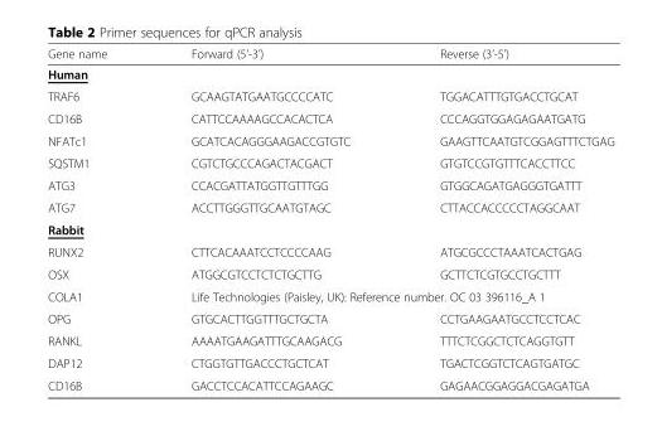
<table><thead><tr><td>Gene name</td><td>Forward (5’-3’)</td><td>Reverse (3’-5’)</td></tr></thead><tbody><tr><td colspan="3">Human</td></tr><tr><td>TRAF6</td><td>GCAAGTATGAATGCCCCATC</td><td>TGGACATTTGTGACCTGCAT</td></tr><tr><td>CD16B</td><td>CATTCCAAAAGCCACACTCA</td><td>CCCAGGTGGAGAGAATGATG</td></tr><tr><td>NFATc1</td><td>GCATCACAGGGAAGACCGTGTC</td><td>GAAGTTCAATGTCGGAGTTTCTGAG</td></tr><tr><td>SQSTM1</td><td>CGTCTGCCCAGACTACGACT</td><td>GTGTCCGTGTTTCACCTTCC</td></tr><tr><td>ATG3</td><td>CCACGATTATGGTTGTTTGG</td><td>GTGGCAGATGAGGGTGATTT</td></tr><tr><td>ATG7</td><td>ACCTTGGGTTGCAATGTAGC</td><td>CTTACCACCCCCTAGGCAAT</td></tr><tr><td colspan="3">Rabbit</td></tr><tr><td>RUNX2</td><td>CTTCACAAATCCTCCCCAAG</td><td>ATGCGCCCTAAATCACTGAG</td></tr><tr><td>OSX</td><td>ATGGCGTCCTCTCTGCTTG</td><td>GCTTCTCGTGCCTGCTTT</td></tr><tr><td>COLA1</td><td colspan="2">Life Technologies (Paisley, UK): Reference number. OC 03 396116_A 1</td></tr><tr><td>OPG</td><td>GTGCACTTGGTTTGCTGCTA</td><td>CCTGAAGAATGCCTCCTCAC</td></tr><tr><td>RANKL</td><td>AAAATGAAGATTTGCAAGACG</td><td>TTTCTCGGCTCTCAGGTGTT</td></tr><tr><td>DAP12</td><td>CTGGTGTTGACCCTGCTCAT</td><td>TGACTCGGTCTCAGTGATGC</td></tr><tr><td>CD16B</td><td>GACCTCCACATTCCAGAAGC</td><td>GAGAACGGAGGACGAGATGA</td></tr></tbody></table>